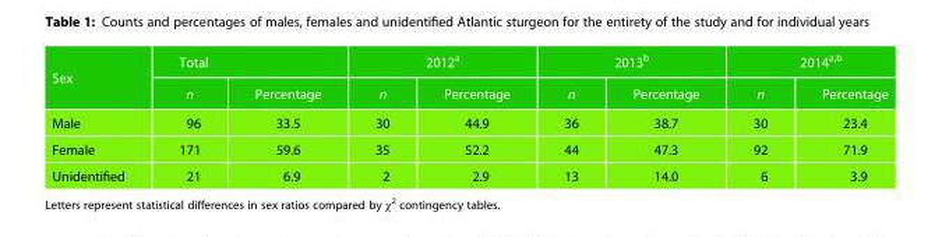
<table><thead><tr><td rowspan="2">Sex</td><td colspan="2">Total</td><td colspan="2">2012<sup>a</sup></td><td colspan="2">2013<sup>b</sup></td><td colspan="2">2014<sup>a,b</sup></td></tr><tr><td>n</td><td>Percentage</td><td>n</td><td>Percentage</td><td>n</td><td>Percentage</td><td>n</td><td>Percentage</td></tr></thead><tbody><tr><td>Male</td><td>96</td><td>33.5</td><td>30</td><td>44.9</td><td>36</td><td>38.7</td><td>30</td><td>23.4</td></tr><tr><td>Female</td><td>171</td><td>59.6</td><td>35</td><td>52.2</td><td>44</td><td>47.3</td><td>92</td><td>71.9</td></tr><tr><td>Unidentified</td><td>21</td><td>6.9</td><td>2</td><td>2.9</td><td>13</td><td>14.0</td><td>6</td><td>3.9</td></tr></tbody></table>